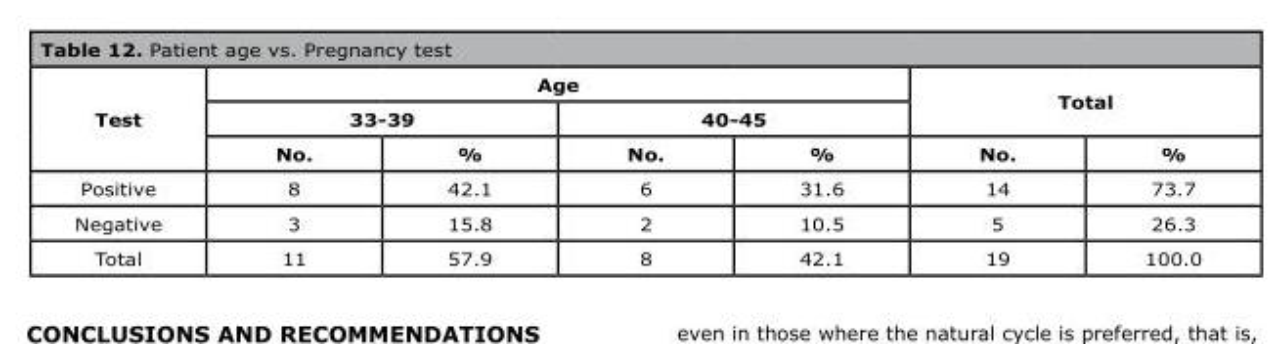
<table><thead><tr><td rowspan="3">Test</td><td colspan="4">Age</td><td rowspan="2" colspan="2">Total</td></tr><tr><td colspan="2">33-39</td><td colspan="2">40-45</td></tr><tr><td>No.</td><td>%</td><td>No.</td><td>%</td><td>No.</td><td>%</td></tr></thead><tbody><tr><td>Positive</td><td>8</td><td>42.1</td><td>6</td><td>31.6</td><td>14</td><td>73.7</td></tr><tr><td>Negative</td><td>3</td><td>15.8</td><td>2</td><td>10.5</td><td>5</td><td>26.3</td></tr><tr><td>Total</td><td>11</td><td>57.9</td><td>8</td><td>42.1</td><td>19</td><td>100.0</td></tr></tbody></table>